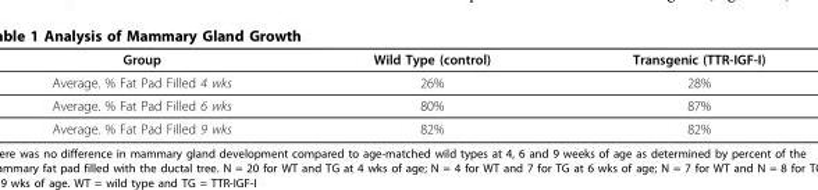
<table><thead><tr><td>Group</td><td>Wild Type (control)</td><td>Transgenic (TTR-IGF-I)</td></tr></thead><tbody><tr><td>Average. % Fat Pad Filled 4 wks</td><td>26%</td><td>28%</td></tr><tr><td>Average. % Fat Pad Filled 6 wks</td><td>80%</td><td>87%</td></tr><tr><td>Average. % Fat Pad Filled 9 wks</td><td>82%</td><td>82%</td></tr></tbody></table>